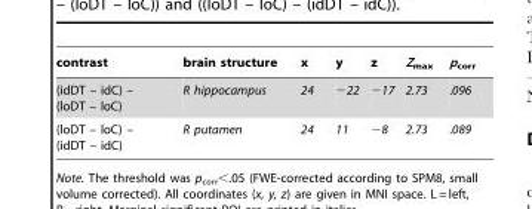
<table><thead><tr><td>contrast</td><td>brain structure</td><td>x</td><td>y</td><td>z</td><td>Z<sub>max</sub></td><td>p<sub>corr</sub></td></tr></thead><tbody><tr><td>(idDT – idC) – (loDT – loC)</td><td>R hippocampus</td><td>24</td><td>−22</td><td>−17</td><td>2.73</td><td>.096</td></tr><tr><td>(loDT – loC) – (idDT – idC)</td><td>R putamen</td><td>24</td><td>11</td><td>−8</td><td>2.73</td><td>.089</td></tr></tbody></table>